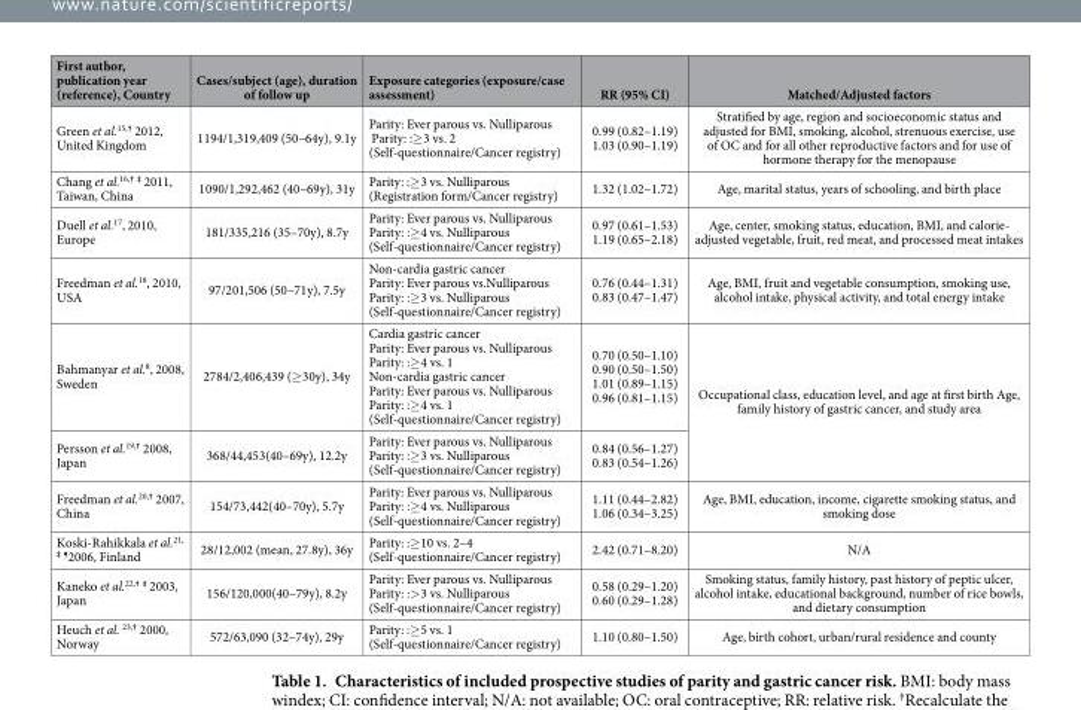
<table><thead><tr><td>First author, publication year (reference), Country</td><td>Cases/subject (age), duration of follow up</td><td>Exposure categories (exposure/case assessment)</td><td>RR (95% CI)</td><td>Matched/Adjusted factors</td></tr></thead><tbody><tr><td>Green et al.<sup>15,</sup>† 2012, United Kingdom</td><td>1194/1,319,409 (50–64y), 9.1y</td><td>Parity: Ever parous vs. Nulliparous Parity: :≥ 3 vs. 2 (Self-questionnaire/Cancer registry)</td><td>0.99 (0.82–1.19) 1.03 (0.90–1.19)</td><td>Stratified by age, region and socioeconomic status and adjusted for BMI, smoking, alcohol, strenuous exercise, use of OC and for all other reproductive factors and for use of hormone therapy for the menopause</td></tr><tr><td>Chang et al.<sup>16,</sup>† ‡ 2011, Taiwan, China</td><td>1090/1,292,462 (40–69y), 31y</td><td>Parity: :≥ 3 vs. Nulliparous (Registration form/Cancer registry)</td><td>1.32 (1.02–1.72)</td><td>Age, marital status, years of schooling, and birth place</td></tr><tr><td>Duell et al.<sup>17</sup>, 2010, Europe</td><td>181/335,216 (35–70y), 8.7y</td><td>Parity: Ever parous vs. Nulliparous Parity: :≥ 4 vs. Nulliparous (Self-questionnaire/Cancer registry)</td><td>0.97 (0.61–1.53) 1.19 (0.65–2.18)</td><td>Age, center, smoking status, education, BMI, and calorie- adjusted vegetable, fruit, red meat, and processed meat intakes</td></tr><tr><td>Freedman et al.<sup>18</sup>, 2010, USA</td><td>97/201,506 (50–71y), 7.5y</td><td>Non-cardia gastric cancer Parity: Ever parous vs.Nulliparous Parity: :≥ 3 vs. Nulliparous (Self-questionnaire/Cancer registry)</td><td>0.76 (0.44–1.31) 0.83 (0.47–1.47)</td><td>Age, BMI, fruit and vegetable consumption, smoking use, alcohol intake, physical activity, and total energy intake</td></tr><tr><td>Bahmanyar et al.<sup>8</sup>, 2008, Sweden</td><td>2784/2,406,439 (≥ 30y), 34y</td><td>Cardia gastric cancer Parity: Ever parous vs. Nulliparous Parity: :≥ 4 vs. 1 Non-cardia gastric cancer Parity: Ever parous vs. Nulliparous Parity: :≥ 4 vs. 1 (Self-questionnaire/Cancer registry)</td><td>0.70 (0.50–1.10) 0.90 (0.50–1.50) 1.01 (0.89–1.15) 0.96 (0.81–1.15)</td><td rowspan="2">Occupational class, education level, and age at first birth Age, family history of gastric cancer, and study area</td></tr><tr><td>Persson et al.<sup>19,</sup>† 2008, Japan</td><td>368/44,453(40–69y), 12.2y</td><td>Parity: Ever parous vs. Nulliparous Parity: :≥ 3 vs. Nulliparous (Self-questionnaire/Cancer registry)</td><td>0.84 (0.56–1.27) 0.83 (0.54–1.26)</td></tr><tr><td>Freedman et al.<sup>20,</sup>† 2007, China</td><td>154/73,442(40–70y), 5.7y</td><td>Parity: Ever parous vs. Nulliparous Parity: :≥ 4 vs. Nulliparous (Self-questionnaire/Cancer registry)</td><td>1.11 (0.44–2.82) 1.06 (0.34–3.25)</td><td>Age, BMI, education, income, cigarette smoking status, and smoking dose</td></tr><tr><td>Koski-Rahikkala et al.<sup>21,</sup> ‡ ¶2006, Finland</td><td>28/12,002 (mean, 27.8y), 36y</td><td>Parity: :≥ 10 vs. 2–4 (Self-questionnaire/Cancer registry)</td><td>2.42 (0.71–8.20)</td><td>N/A</td></tr><tr><td>Kaneko et al.<sup>22,</sup>† ‡ 2003, Japan</td><td>156/120,000(40–79y), 8.2y</td><td>Parity: Ever parous vs. Nulliparous Parity: :&gt; 3 vs. Nulliparous (Self-questionnaire/Cancer registry)</td><td>0.58 (0.29–1.20) 0.60 (0.29–1.28)</td><td>Smoking status, family history, past history of peptic ulcer, alcohol intake, educational background, number of rice bowls, and dietary consumption</td></tr><tr><td>Heuch et al. 23<sup>,</sup>† 2000, Norway</td><td>572/63,090 (32–74y), 29y</td><td>Parity: :≥ 5 vs. 1 (Self-questionnaire/Cancer registry)</td><td>1.10 (0.80–1.50)</td><td>Age, birth cohort, urban/rural residence and county</td></tr></tbody></table>